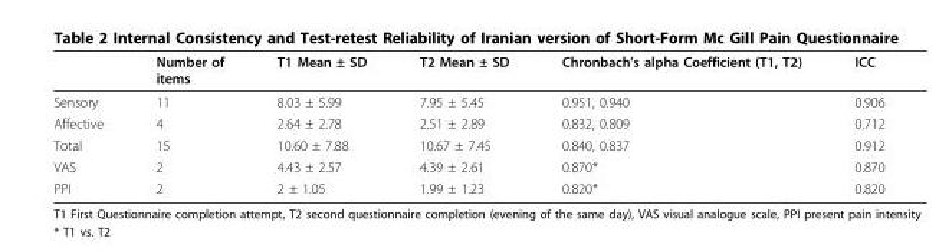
<table><thead><tr><td></td><td>Number of items</td><td>T1 Mean ± SD</td><td>T2 Mean ± SD</td><td>Chronbach’s alpha Coefficient (T1, T2)</td><td>ICC</td></tr></thead><tbody><tr><td>Sensory</td><td>11</td><td>8.03 ± 5.99</td><td>7.95 ± 5.45</td><td>0.951, 0.940</td><td>0.906</td></tr><tr><td>Affective</td><td>4</td><td>2.64 ± 2.78</td><td>2.51 ± 2.89</td><td>0.832, 0.809</td><td>0.712</td></tr><tr><td>Total</td><td>15</td><td>10.60 ± 7.88</td><td>10.67 ± 7.45</td><td>0.840, 0.837</td><td>0.912</td></tr><tr><td>VAS</td><td>2</td><td>4.43 ± 2.57</td><td>4.39 ± 2.61</td><td>0.870*</td><td>0.870</td></tr><tr><td>PPI</td><td>2</td><td>2 ± 1.05</td><td>1.99 ± 1.23</td><td>0.820*</td><td>0.820</td></tr></tbody></table>